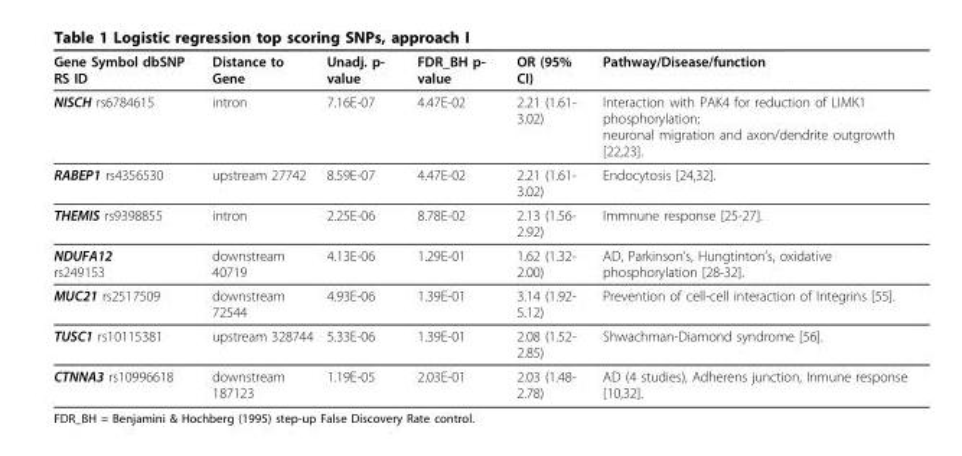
<table><thead><tr><td>Gene Symbol dbSNP RS ID</td><td>Distance to Gene</td><td>Unadj. p- value</td><td>FDR_BH p- value</td><td>OR (95% CI)</td><td>Pathway/Disease/function</td></tr></thead><tbody><tr><td>NISCH rs6784615</td><td>intron</td><td>7.16E-07</td><td>4.47E-02</td><td>2.21 (1.61- 3.02)</td><td>Interaction with PAK4 for reduction of LIMK1 phosphorylation; neuronal migration and axon/dendrite outgrowth [22,23].</td></tr><tr><td>RABEP1 rs4356530</td><td>upstream 27742</td><td>8.59E-07</td><td>4.47E-02</td><td>2.21 (1.61- 3.02)</td><td>Endocytosis [24,32].</td></tr><tr><td>THEMIS rs9398855</td><td>intron</td><td>2.25E-06</td><td>8.78E-02</td><td>2.13 (1.56- 2.92)</td><td>Immnune response [25-27].</td></tr><tr><td>NDUFA12 rs249153</td><td>downstream 40719</td><td>4.13E-06</td><td>1.29E-01</td><td>1.62 (1.32- 2.00)</td><td>AD, Parkinson’s, Hungtinton’s, oxidative phosphorylation [28-32].</td></tr><tr><td>MUC21 rs2517509</td><td>downstream 72544</td><td>4.93E-06</td><td>1.39E-01</td><td>3.14 (1.92- 5.12)</td><td>Prevention of cell-cell interaction of Integrins [55].</td></tr><tr><td>TUSC1 rs10115381</td><td>upstream 328744</td><td>5.33E-06</td><td>1.39E-01</td><td>2.08 (1.52- 2.85)</td><td>Shwachman-Diamond syndrome [56].</td></tr><tr><td>CTNNA3 rs10996618</td><td>downstream 187123</td><td>1.19E-05</td><td>2.03E-01</td><td>2.03 (1.48- 2.78)</td><td>AD (4 studies), Adherens junction, Inmune response [10,32].</td></tr></tbody></table>